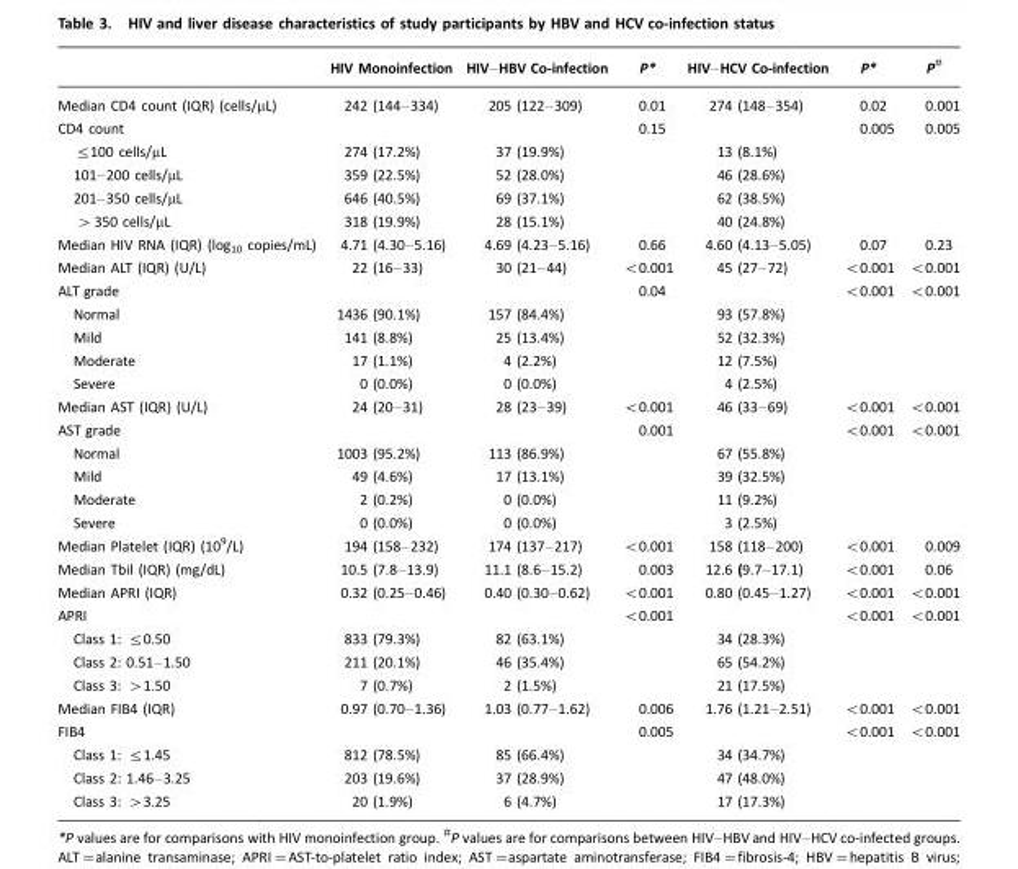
<table><thead><tr><td></td><td>HIV Monoinfection</td><td>HIV–HBV Co-infection</td><td>P*</td><td>HIV–HCV Co-infection</td><td>P*</td><td>P#</td></tr></thead><tbody><tr><td>Median CD4 count (IQR) (cells/μL)</td><td>242 (144–334)</td><td>205 (122–309)</td><td>0.01</td><td>274 (148–354)</td><td>0.02</td><td>0.001</td></tr><tr><td>CD4 count</td><td></td><td></td><td>0.15</td><td></td><td>0.005</td><td>0.005</td></tr><tr><td>≤100 cells/μL</td><td>274 (17.2%)</td><td>37 (19.9%)</td><td></td><td>13 (8.1%)</td><td></td><td></td></tr><tr><td>101–200 cells/μL</td><td>359 (22.5%)</td><td>52 (28.0%)</td><td></td><td>46 (28.6%)</td><td></td><td></td></tr><tr><td>201–350 cells/μL</td><td>646 (40.5%)</td><td>69 (37.1%)</td><td></td><td>62 (38.5%)</td><td></td><td></td></tr><tr><td>&gt;350 cells/μL</td><td>318 (19.9%)</td><td>28 (15.1%)</td><td></td><td>40 (24.8%)</td><td></td><td></td></tr><tr><td>Median HIV RNA (IQR) (log<sub>10</sub> copies/mL)</td><td>4.71 (4.30–5.16)</td><td>4.69 (4.23–5.16)</td><td>0.66</td><td>4.60 (4.13–5.05)</td><td>0.07</td><td>0.23</td></tr><tr><td>Median ALT (IQR) (U/L)</td><td>22 (16–33)</td><td>30 (21–44)</td><td>&lt;0.001</td><td>45 (27–72)</td><td>&lt;0.001</td><td>&lt;0.001</td></tr><tr><td>ALT grade</td><td></td><td></td><td>0.04</td><td></td><td>&lt;0.001</td><td>&lt;0.001</td></tr><tr><td>Normal</td><td>1436 (90.1%)</td><td>157 (84.4%)</td><td></td><td>93 (57.8%)</td><td></td><td></td></tr><tr><td>Mild</td><td>141 (8.8%)</td><td>25 (13.4%)</td><td></td><td>52 (32.3%)</td><td></td><td></td></tr><tr><td>Moderate</td><td>17 (1.1%)</td><td>4 (2.2%)</td><td></td><td>12 (7.5%)</td><td></td><td></td></tr><tr><td>Severe</td><td>0 (0.0%)</td><td>0 (0.0%)</td><td></td><td>4 (2.5%)</td><td></td><td></td></tr><tr><td>Median AST (IQR) (U/L)</td><td>24 (20–31)</td><td>28 (23–39)</td><td>&lt;0.001</td><td>46 (33–69)</td><td>&lt;0.001</td><td>&lt;0.001</td></tr><tr><td>AST grade</td><td></td><td></td><td>0.001</td><td></td><td>&lt;0.001</td><td>&lt;0.001</td></tr><tr><td>Normal</td><td>1003 (95.2%)</td><td>113 (86.9%)</td><td></td><td>67 (55.8%)</td><td></td><td></td></tr><tr><td>Mild</td><td>49 (4.6%)</td><td>17 (13.1%)</td><td></td><td>39 (32.5%)</td><td></td><td></td></tr><tr><td>Moderate</td><td>2 (0.2%)</td><td>0 (0.0%)</td><td></td><td>11 (9.2%)</td><td></td><td></td></tr><tr><td>Severe</td><td>0 (0.0%)</td><td>0 (0.0%)</td><td></td><td>3 (2.5%)</td><td></td><td></td></tr><tr><td>Median Platelet (IQR) (10<sup>9</sup>/L)</td><td>194 (158–232)</td><td>174 (137–217)</td><td>&lt;0.001</td><td>158 (118–200)</td><td>&lt;0.001</td><td>0.009</td></tr><tr><td>Median Tbil (IQR) (mg/dL)</td><td>10.5 (7.8–13.9)</td><td>11.1 (8.6–15.2)</td><td>0.003</td><td>12.6 (9.7–17.1)</td><td>&lt;0.001</td><td>0.06</td></tr><tr><td>Median APRI (IQR)</td><td>0.32 (0.25–0.46)</td><td>0.40 (0.30–0.62)</td><td>&lt;0.001</td><td>0.80 (0.45–1.27)</td><td>&lt;0.001</td><td>&lt;0.001</td></tr><tr><td>APRI</td><td></td><td></td><td>&lt;0.001</td><td></td><td>&lt;0.001</td><td>&lt;0.001</td></tr><tr><td>Class 1: ≤0.50</td><td>833 (79.3%)</td><td>82 (63.1%)</td><td></td><td>34 (28.3%)</td><td></td><td></td></tr><tr><td>Class 2: 0.51–1.50</td><td>211 (20.1%)</td><td>46 (35.4%)</td><td></td><td>65 (54.2%)</td><td></td><td></td></tr><tr><td>Class 3: &gt;1.50</td><td>7 (0.7%)</td><td>2 (1.5%)</td><td></td><td>21 (17.5%)</td><td></td><td></td></tr><tr><td>Median FIB4 (IQR)</td><td>0.97 (0.70–1.36)</td><td>1.03 (0.77–1.62)</td><td>0.006</td><td>1.76 (1.21–2.51)</td><td>&lt;0.001</td><td>&lt;0.001</td></tr><tr><td>FIB4</td><td></td><td></td><td>0.005</td><td></td><td>&lt;0.001</td><td>&lt;0.001</td></tr><tr><td>Class 1: ≤1.45</td><td>812 (78.5%)</td><td>85 (66.4%)</td><td></td><td>34 (34.7%)</td><td></td><td></td></tr><tr><td>Class 2: 1.46–3.25</td><td>203 (19.6%)</td><td>37 (28.9%)</td><td></td><td>47 (48.0%)</td><td></td><td></td></tr><tr><td>Class 3: &gt;3.25</td><td>20 (1.9%)</td><td>6 (4.7%)</td><td></td><td>17 (17.3%)</td><td></td><td></td></tr></tbody></table>